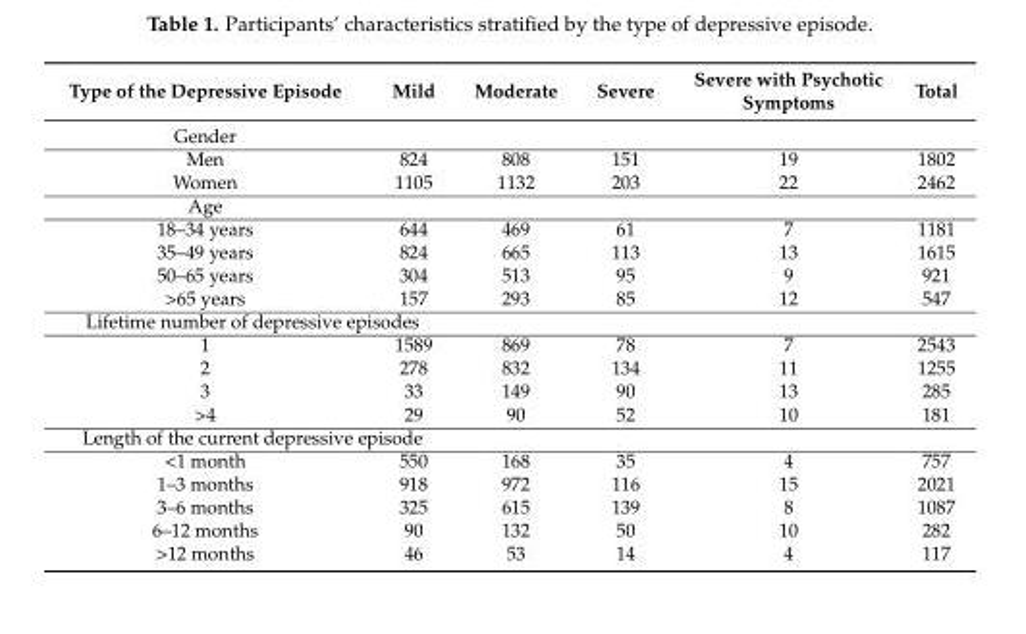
<table><thead><tr><td>Type of the Depressive Episode</td><td>Mild</td><td>Moderate</td><td>Severe</td><td>Severe with Psychotic Symptoms</td><td>Total</td></tr></thead><tbody><tr><td colspan="6">Gender</td></tr><tr><td>Men</td><td>824</td><td>808</td><td>151</td><td>19</td><td>1802</td></tr><tr><td>Women</td><td>1105</td><td>1132</td><td>203</td><td>22</td><td>2462</td></tr><tr><td colspan="6">Age</td></tr><tr><td>18–34 years</td><td>644</td><td>469</td><td>61</td><td>7</td><td>1181</td></tr><tr><td>35–49 years</td><td>824</td><td>665</td><td>113</td><td>13</td><td>1615</td></tr><tr><td>50–65 years</td><td>304</td><td>513</td><td>95</td><td>9</td><td>921</td></tr><tr><td>&gt;65 years</td><td>157</td><td>293</td><td>85</td><td>12</td><td>547</td></tr><tr><td colspan="6">Lifetime number of depressive episodes</td></tr><tr><td>1</td><td>1589</td><td>869</td><td>78</td><td>7</td><td>2543</td></tr><tr><td>2</td><td>278</td><td>832</td><td>134</td><td>11</td><td>1255</td></tr><tr><td>3</td><td>33</td><td>149</td><td>90</td><td>13</td><td>285</td></tr><tr><td>&gt;4</td><td>29</td><td>90</td><td>52</td><td>10</td><td>181</td></tr><tr><td colspan="6">Length of the current depressive episode</td></tr><tr><td>&lt;1 month</td><td>550</td><td>168</td><td>35</td><td>4</td><td>757</td></tr><tr><td>1–3 months</td><td>918</td><td>972</td><td>116</td><td>15</td><td>2021</td></tr><tr><td>3–6 months</td><td>325</td><td>615</td><td>139</td><td>8</td><td>1087</td></tr><tr><td>6–12 months</td><td>90</td><td>132</td><td>50</td><td>10</td><td>282</td></tr><tr><td>&gt;12 months</td><td>46</td><td>53</td><td>14</td><td>4</td><td>117</td></tr></tbody></table>